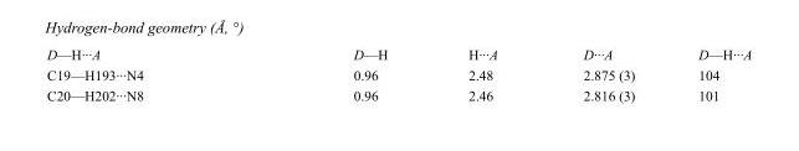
<table><tbody><tr><td>D—H···A</td><td>D—H</td><td>H···A</td><td>D···A</td><td>D—H···A</td></tr><tr><td>C19—H193···N4</td><td>0.96</td><td>2.48</td><td>2.875 (3)</td><td>104</td></tr><tr><td>C20—H202···N8</td><td>0.96</td><td>2.46</td><td>2.816 (3)</td><td>101</td></tr></tbody></table>